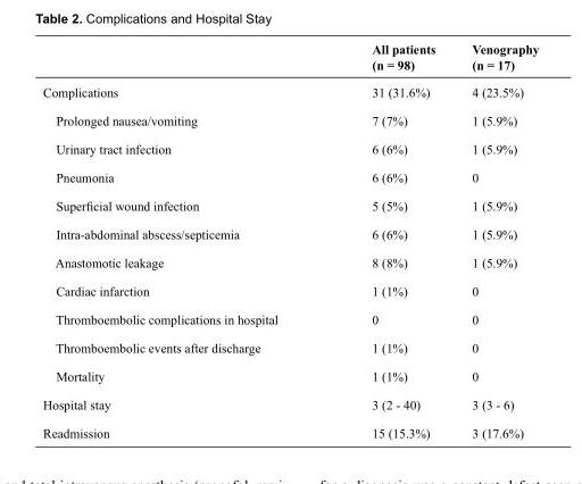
<table><thead><tr><td></td><td>All patients (n = 98)</td><td>Venography (n = 17)</td></tr></thead><tbody><tr><td>Complications</td><td>31 (31.6%)</td><td>4 (23.5%)</td></tr><tr><td>Prolonged nausea/vomiting</td><td>7 (7%)</td><td>1 (5.9%)</td></tr><tr><td>Urinary tract infection</td><td>6 (6%)</td><td>1 (5.9%)</td></tr><tr><td>Pneumonia</td><td>6 (6%)</td><td>0</td></tr><tr><td>Superficial wound infection</td><td>5 (5%)</td><td>1 (5.9%)</td></tr><tr><td>Intra-abdominal abscess/septicemia</td><td>6 (6%)</td><td>1 (5.9%)</td></tr><tr><td>Anastomotic leakage</td><td>8 (8%)</td><td>1 (5.9%)</td></tr><tr><td>Cardiac infarction</td><td>1 (1%)</td><td>0</td></tr><tr><td>Thromboembolic complications in hospital</td><td>0</td><td>0</td></tr><tr><td>Thromboembolic events after discharge</td><td>1 (1%)</td><td>0</td></tr><tr><td>Mortality</td><td>1 (1%)</td><td>0</td></tr><tr><td>Hospital stay</td><td>3 (2 - 40)</td><td>3 (3 - 6)</td></tr><tr><td>Readmission</td><td>15 (15.3%)</td><td>3 (17.6%)</td></tr></tbody></table>